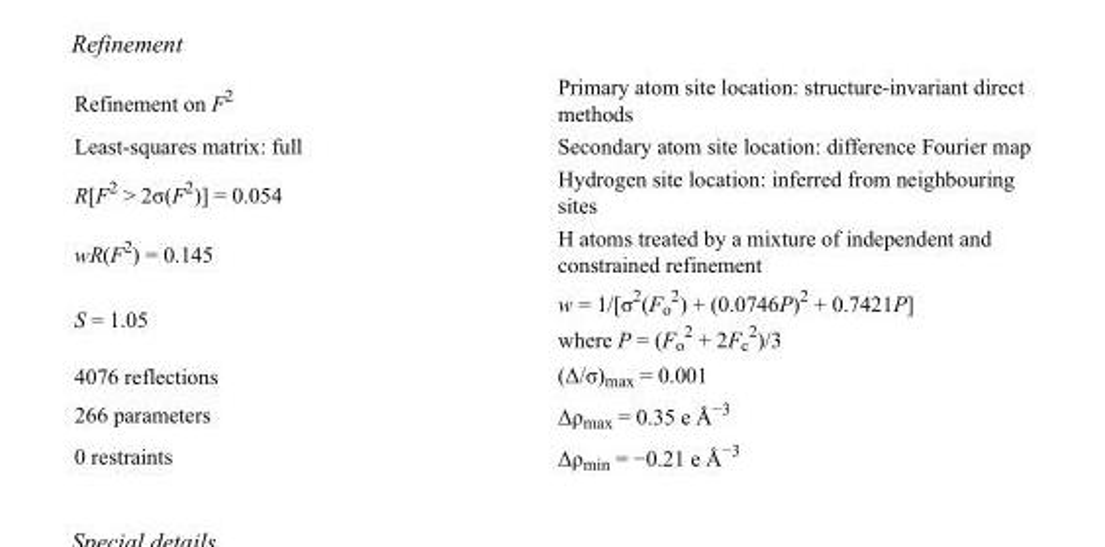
<table><tbody><tr><td>Refinement on F<sup>2</sup></td><td>Primary atom site location: structure-invariant direct methods</td></tr><tr><td>Least-squares matrix: full</td><td>Secondary atom site location: difference Fourier map</td></tr><tr><td>R[F<sup>2</sup> &gt; 2σ(F<sup>2</sup>)] = 0.054</td><td>Hydrogen site location: inferred from neighbouring sites</td></tr><tr><td>wR(F<sup>2</sup>) = 0.145</td><td>H atoms treated by a mixture of independent and constrained refinement</td></tr><tr><td>S = 1.05</td><td>w = 1/[σ<sup>2</sup>(F<sub>o</sub> <sup>2</sup>) + (0.0746P)<sup>2</sup> + 0.7421P] where P = (F<sub>o</sub> <sup>2</sup> + 2F<sub>c</sub> <sup>2</sup>)/3</td></tr><tr><td>4076 reflections</td><td>(Δ/σ)<sub>max</sub> = 0.001</td></tr><tr><td>266 parameters</td><td>Δρ<sub>max</sub> = 0.35 e Å<sup>−3</sup></td></tr><tr><td>0 restraints</td><td>Δρ<sub>min</sub> = −0.21 e Å<sup>−3</sup></td></tr></tbody></table>